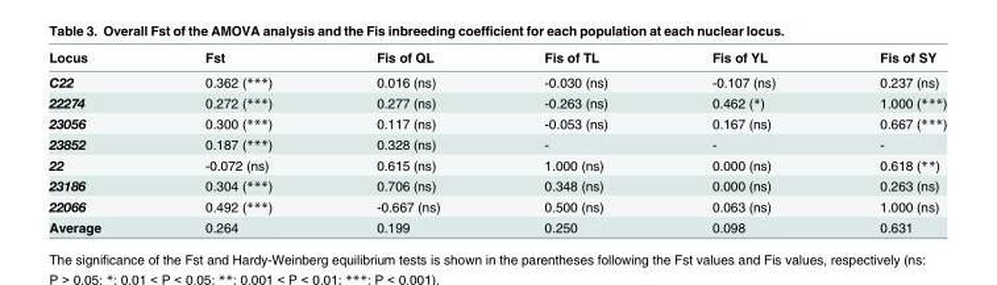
<table><thead><tr><td>Locus</td><td>Fst</td><td>Fis of QL</td><td>Fis of TL</td><td>Fis of YL</td><td>Fis of SY</td></tr></thead><tbody><tr><td>C22</td><td>0.362 (***)</td><td>0.016 (ns)</td><td>-0.030 (ns)</td><td>-0.107 (ns)</td><td>0.237 (ns)</td></tr><tr><td>22274</td><td>0.272 (***)</td><td>0.277 (ns)</td><td>-0.263 (ns)</td><td>0.462 (*)</td><td>1.000 (***)</td></tr><tr><td>23056</td><td>0.300 (***)</td><td>0.117 (ns)</td><td>-0.053 (ns)</td><td>0.167 (ns)</td><td>0.667 (***)</td></tr><tr><td>23852</td><td>0.187 (***)</td><td>0.328 (ns)</td><td>-</td><td>-</td><td>-</td></tr><tr><td>22</td><td>-0.072 (ns)</td><td>0.615 (ns)</td><td>1.000 (ns)</td><td>0.000 (ns)</td><td>0.618 (**)</td></tr><tr><td>23186</td><td>0.304 (***)</td><td>0.706 (ns)</td><td>0.348 (ns)</td><td>0.000 (ns)</td><td>0.263 (ns)</td></tr><tr><td>22066</td><td>0.492 (***)</td><td>-0.667 (ns)</td><td>0.500 (ns)</td><td>0.063 (ns)</td><td>1.000 (ns)</td></tr><tr><td>Average</td><td>0.264</td><td>0.199</td><td>0.250</td><td>0.098</td><td>0.631</td></tr></tbody></table>